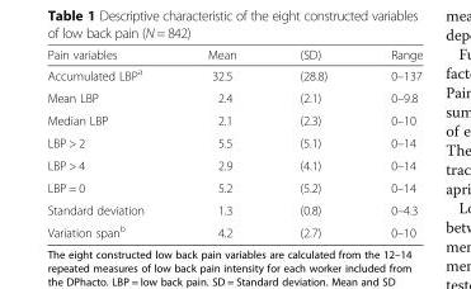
<table><thead><tr><td>Pain variables</td><td>Mean</td><td>(SD)</td><td>Range</td></tr></thead><tbody><tr><td>Accumulated LBP<sup>a</sup></td><td>32.5</td><td>(28.8)</td><td>0–137</td></tr><tr><td>Mean LBP</td><td>2.4</td><td>(2.1)</td><td>0–9.8</td></tr><tr><td>Median LBP</td><td>2.1</td><td>(2.3)</td><td>0–10</td></tr><tr><td>LBP &gt; 2</td><td>5.5</td><td>(5.1)</td><td>0–14</td></tr><tr><td>LBP &gt; 4</td><td>2.9</td><td>(4.1)</td><td>0–14</td></tr><tr><td>LBP = 0</td><td>5.2</td><td>(5.2)</td><td>0–14</td></tr><tr><td>Standard deviation</td><td>1.3</td><td>(0.8)</td><td>0–4.3</td></tr><tr><td>Variation span<sup>b</sup></td><td>4.2</td><td>(2.7)</td><td>0–10</td></tr></tbody></table>